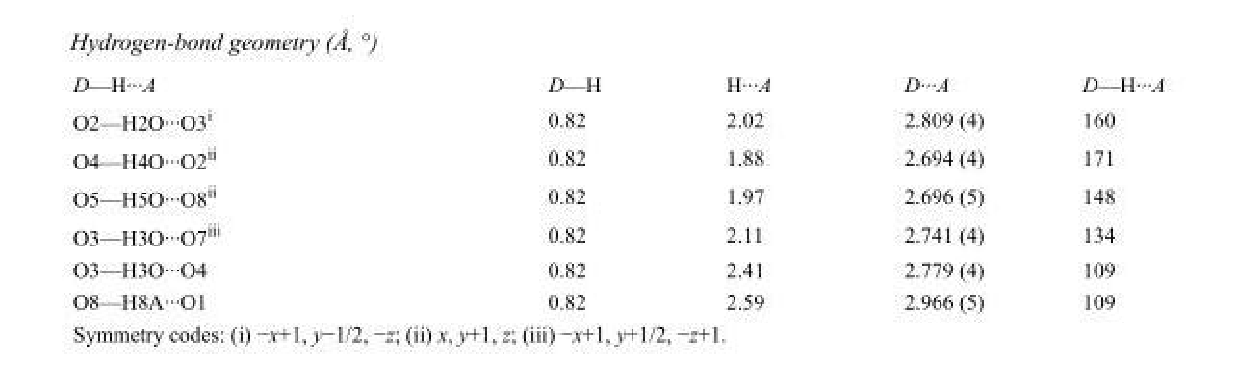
<table><tbody><tr><td>D—H···A</td><td>D—H</td><td>H···A</td><td>D···A</td><td>D—H···A</td></tr><tr><td>O2—H2O···O3<sup>i</sup></td><td>0.82</td><td>2.02</td><td>2.809 (4)</td><td>160</td></tr><tr><td>O4—H4O···O2<sup>ii</sup></td><td>0.82</td><td>1.88</td><td>2.694 (4)</td><td>171</td></tr><tr><td>O5—H5O···O8<sup>ii</sup></td><td>0.82</td><td>1.97</td><td>2.696 (5)</td><td>148</td></tr><tr><td>O3—H3O···O7<sup>iii</sup></td><td>0.82</td><td>2.11</td><td>2.741 (4)</td><td>134</td></tr><tr><td>O3—H3O···O4</td><td>0.82</td><td>2.41</td><td>2.779 (4)</td><td>109</td></tr><tr><td>O8—H8A···O1</td><td>0.82</td><td>2.59</td><td>2.966 (5)</td><td>109</td></tr></tbody></table>